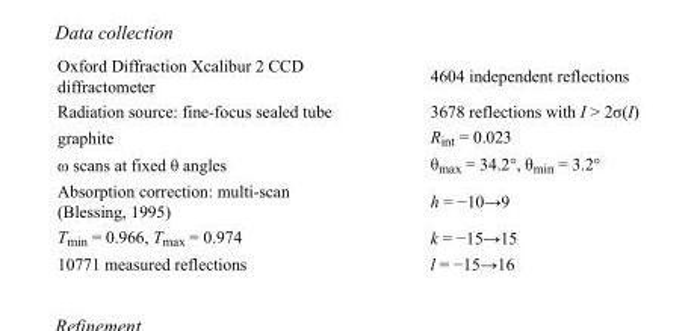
<table><tbody><tr><td>Oxford Diffraction Xcalibur 2 CCD diffractometer</td><td>4604 independent reflections</td></tr><tr><td>Radiation source: fine-focus sealed tube</td><td>3678 reflections with I &gt; 2σ(I)</td></tr><tr><td>graphite</td><td>R<sub>int</sub> = 0.023</td></tr><tr><td>ω scans at fixed θ angles</td><td>θ<sub>max</sub> = 34.2°, θ<sub>min</sub> = 3.2°</td></tr><tr><td>Absorption correction: multi-scan (Blessing, 1995)</td><td>h = −10→9</td></tr><tr><td>T<sub>min</sub> = 0.966, T<sub>max</sub> = 0.974</td><td>k = −15→15</td></tr><tr><td>10771 measured reflections</td><td>l = −15→16</td></tr></tbody></table>